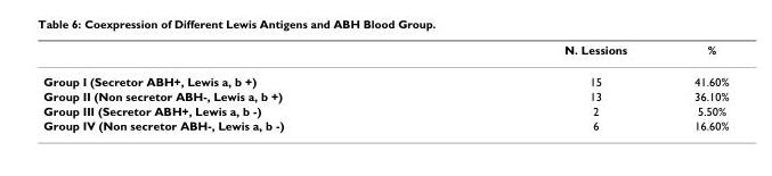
<table><thead><tr><td></td><td>N. Lessions</td><td>%</td></tr></thead><tbody><tr><td>Group I (Secretor ABH+, Lewis a, b +)</td><td>15</td><td>41.60%</td></tr><tr><td>Group II (Non secretor ABH-, Lewis a, b +)</td><td>13</td><td>36.10%</td></tr><tr><td>Group III (Secretor ABH+, Lewis a, b -)</td><td>2</td><td>5.50%</td></tr><tr><td>Group IV (Non secretor ABH-, Lewis a, b -)</td><td>6</td><td>16.60%</td></tr></tbody></table>